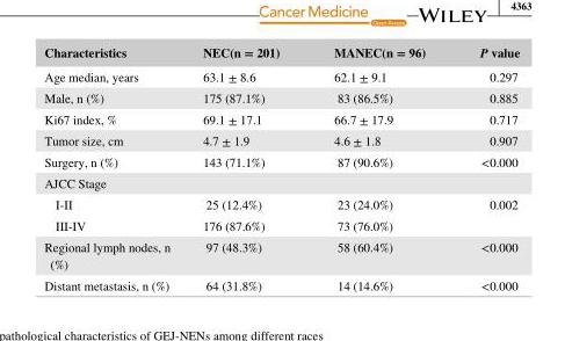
<table><thead><tr><td>Characteristics</td><td>NEC(n = 201)</td><td>MANEC(n = 96)</td><td>P value</td></tr></thead><tbody><tr><td>Age median, years</td><td>63.1 ± 8.6</td><td>62.1 ± 9.1</td><td>0.297</td></tr><tr><td>Male, n (%)</td><td>175 (87.1%)</td><td>83 (86.5%)</td><td>0.885</td></tr><tr><td>Ki67 index, %</td><td>69.1 ± 17.1</td><td>66.7 ± 17.9</td><td>0.717</td></tr><tr><td>Tumor size, cm</td><td>4.7 ± 1.9</td><td>4.6 ± 1.8</td><td>0.907</td></tr><tr><td>Surgery, n (%)</td><td>143 (71.1%)</td><td>87 (90.6%)</td><td>&lt;0.000</td></tr><tr><td colspan="4">AJCC Stage</td></tr><tr><td>I- II</td><td>25 (12.4%)</td><td>23 (24.0%)</td><td rowspan="2">0.002</td></tr><tr><td>III- IV</td><td>176 (87.6%)</td><td>73 (76.0%)</td></tr><tr><td>Regional lymph nodes, n (%)</td><td>97 (48.3%)</td><td>58 (60.4%)</td><td>&lt;0.000</td></tr><tr><td>Distant metastasis, n (%)</td><td>64 (31.8%)</td><td>14 (14.6%)</td><td>&lt;0.000</td></tr></tbody></table>